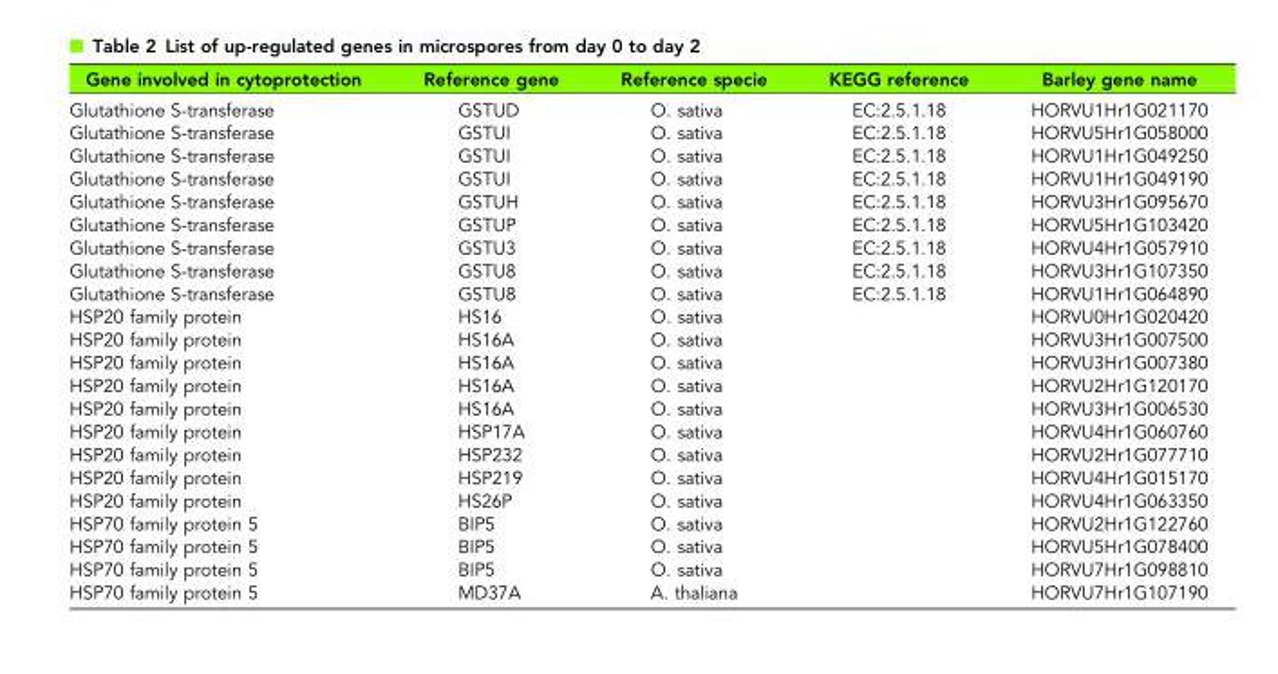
<table><thead><tr><td>Gene involved in cytoprotection</td><td>Reference gene</td><td>Reference specie</td><td>KEGG reference</td><td>Barley gene name</td></tr></thead><tbody><tr><td>Glutathione S-transferase</td><td>GSTUD</td><td>O. sativa</td><td>EC:2.5.1.18</td><td>HORVU1Hr1G021170</td></tr><tr><td>Glutathione S-transferase</td><td>GSTUI</td><td>O. sativa</td><td>EC:2.5.1.18</td><td>HORVU5Hr1G058000</td></tr><tr><td>Glutathione S-transferase</td><td>GSTUI</td><td>O. sativa</td><td>EC:2.5.1.18</td><td>HORVU1Hr1G049250</td></tr><tr><td>Glutathione S-transferase</td><td>GSTUI</td><td>O. sativa</td><td>EC:2.5.1.18</td><td>HORVU1Hr1G049190</td></tr><tr><td>Glutathione S-transferase</td><td>GSTUH</td><td>O. sativa</td><td>EC:2.5.1.18</td><td>HORVU3Hr1G095670</td></tr><tr><td>Glutathione S-transferase</td><td>GSTUP</td><td>O. sativa</td><td>EC:2.5.1.18</td><td>HORVU5Hr1G103420</td></tr><tr><td>Glutathione S-transferase</td><td>GSTU3</td><td>O. sativa</td><td>EC:2.5.1.18</td><td>HORVU4Hr1G057910</td></tr><tr><td>Glutathione S-transferase</td><td>GSTU8</td><td>O. sativa</td><td>EC:2.5.1.18</td><td>HORVU3Hr1G107350</td></tr><tr><td>Glutathione S-transferase</td><td>GSTU8</td><td>O. sativa</td><td>EC:2.5.1.18</td><td>HORVU1Hr1G064890</td></tr><tr><td>HSP20 family protein</td><td>HS16</td><td>O. sativa</td><td></td><td>HORVU0Hr1G020420</td></tr><tr><td>HSP20 family protein</td><td>HS16A</td><td>O. sativa</td><td></td><td>HORVU3Hr1G007500</td></tr><tr><td>HSP20 family protein</td><td>HS16A</td><td>O. sativa</td><td></td><td>HORVU3Hr1G007380</td></tr><tr><td>HSP20 family protein</td><td>HS16A</td><td>O. sativa</td><td></td><td>HORVU2Hr1G120170</td></tr><tr><td>HSP20 family protein</td><td>HS16A</td><td>O. sativa</td><td></td><td>HORVU3Hr1G006530</td></tr><tr><td>HSP20 family protein</td><td>HSP17A</td><td>O. sativa</td><td></td><td>HORVU4Hr1G060760</td></tr><tr><td>HSP20 family protein</td><td>HSP232</td><td>O. sativa</td><td></td><td>HORVU2Hr1G077710</td></tr><tr><td>HSP20 family protein</td><td>HSP219</td><td>O. sativa</td><td></td><td>HORVU4Hr1G015170</td></tr><tr><td>HSP20 family protein</td><td>HS26P</td><td>O. sativa</td><td></td><td>HORVU4Hr1G063350</td></tr><tr><td>HSP70 family protein 5</td><td>BIP5</td><td>O. sativa</td><td></td><td>HORVU2Hr1G122760</td></tr><tr><td>HSP70 family protein 5</td><td>BIP5</td><td>O. sativa</td><td></td><td>HORVU5Hr1G078400</td></tr><tr><td>HSP70 family protein 5</td><td>BIP5</td><td>O. sativa</td><td></td><td>HORVU7Hr1G098810</td></tr><tr><td>HSP70 family protein 5</td><td>MD37A</td><td>A. thaliana</td><td></td><td>HORVU7Hr1G107190</td></tr></tbody></table>